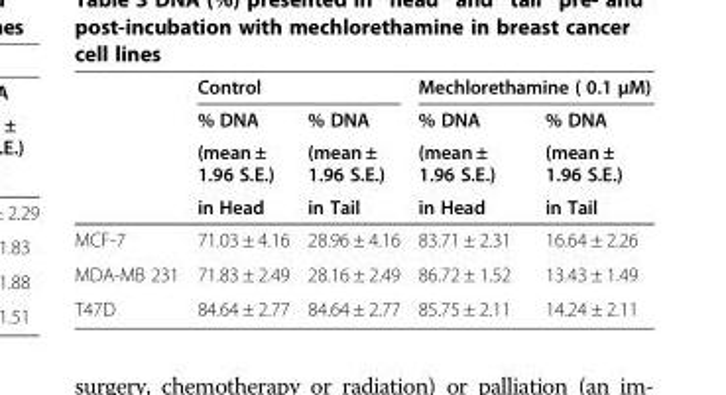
<table><thead><tr><td rowspan="4"></td><td colspan="2">Control</td><td colspan="2">Mechlorethamine ( 0.1 μM)</td></tr><tr><td rowspan="3">% DNA (mean ± 1.96 S.E.) in Head</td><td rowspan="3">% DNA (mean ± 1.96 S.E.) in Tail</td><td rowspan="3">% DNA (mean ± 1.96 S.E.) in Head</td><td rowspan="3">% DNA (mean ± 1.96 S.E.) in Tail</td></tr><tr></tr><tr></tr></thead><tbody><tr><td>MCF-7</td><td>71.03 ± 4.16</td><td>28.96 ± 4.16</td><td>83.71 ± 2.31</td><td>16.64 ± 2.26</td></tr><tr><td>MDA-MB 231</td><td>71.83 ± 2.49</td><td>28.16 ± 2.49</td><td>86.72 ± 1.52</td><td>13.43 ± 1.49</td></tr><tr><td>T47D</td><td>84.64 ± 2.77</td><td>84.64 ± 2.77</td><td>85.75 ± 2.11</td><td>14.24 ± 2.11</td></tr></tbody></table>